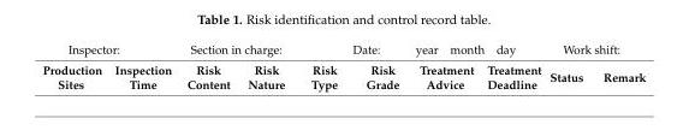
<table><tbody><tr><td colspan="10">Inspector: Section in charge: Date: year month day Work shift:</td></tr><tr><td>Production Sites</td><td>Inspection Time</td><td>Risk Content</td><td>Risk Nature</td><td>Risk Type</td><td>Risk Grade</td><td>Treatment Advice</td><td>Treatment Deadline</td><td>Status</td><td>Remark</td></tr></tbody></table>